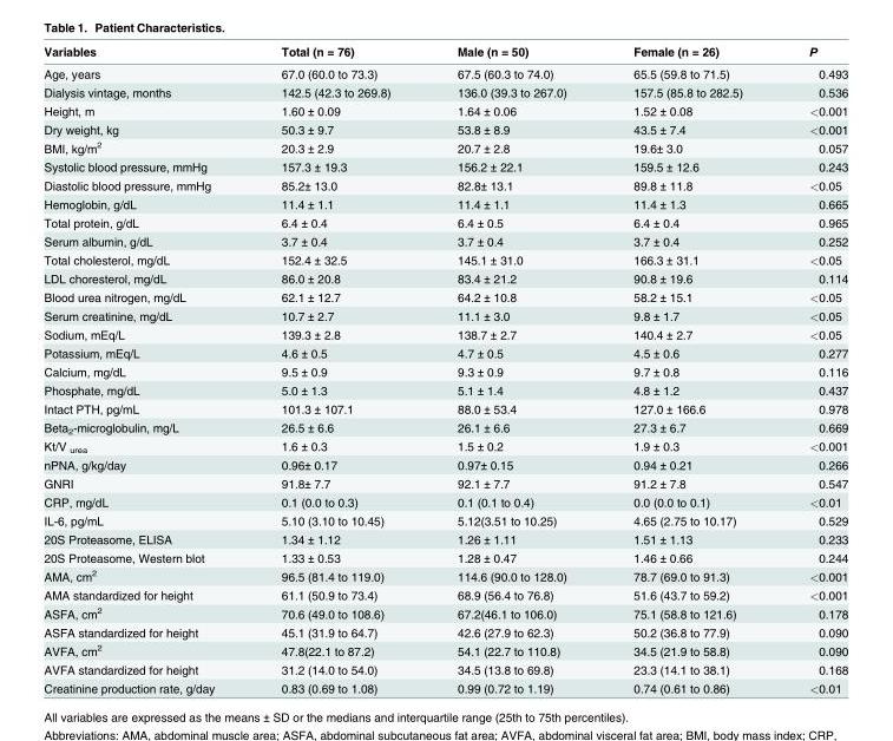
<table><thead><tr><td>Variables</td><td>Total (n = 76)</td><td>Male (n = 50)</td><td>Female (n = 26)</td><td>P</td></tr></thead><tbody><tr><td>Age, years</td><td>67.0 (60.0 to 73.3)</td><td>67.5 (60.3 to 74.0)</td><td>65.5 (59.8 to 71.5)</td><td>0.493</td></tr><tr><td>Dialysis vintage, months</td><td>142.5 (42.3 to 269.8)</td><td>136.0 (39.3 to 267.0)</td><td>157.5 (85.8 to 282.5)</td><td>0.536</td></tr><tr><td>Height, m</td><td>1.60 ± 0.09</td><td>1.64 ± 0.06</td><td>1.52 ± 0.08</td><td>&lt;0.001</td></tr><tr><td>Dry weight, kg</td><td>50.3 ± 9.7</td><td>53.8 ± 8.9</td><td>43.5 ± 7.4</td><td>&lt;0.001</td></tr><tr><td>BMI, kg/m<sup>2</sup></td><td>20.3 ± 2.9</td><td>20.7 ± 2.8</td><td>19.6± 3.0</td><td>0.057</td></tr><tr><td>Systolic blood pressure, mmHg</td><td>157.3 ± 19.3</td><td>156.2 ± 22.1</td><td>159.5 ± 12.6</td><td>0.243</td></tr><tr><td>Diastolic blood pressure, mmHg</td><td>85.2± 13.0</td><td>82.8± 13.1</td><td>89.8 ± 11.8</td><td>&lt;0.05</td></tr><tr><td>Hemoglobin, g/dL</td><td>11.4 ± 1.1</td><td>11.4 ± 1.1</td><td>11.4 ± 1.3</td><td>0.665</td></tr><tr><td>Total protein, g/dL</td><td>6.4 ± 0.4</td><td>6.4 ± 0.5</td><td>6.4 ± 0.4</td><td>0.965</td></tr><tr><td>Serum albumin, g/dL</td><td>3.7 ± 0.4</td><td>3.7 ± 0.4</td><td>3.7 ± 0.4</td><td>0.252</td></tr><tr><td>Total cholesterol, mg/dL</td><td>152.4 ± 32.5</td><td>145.1 ± 31.0</td><td>166.3 ± 31.1</td><td>&lt;0.05</td></tr><tr><td>LDL choresterol, mg/dL</td><td>86.0 ± 20.8</td><td>83.4 ± 21.2</td><td>90.8 ± 19.6</td><td>0.114</td></tr><tr><td>Blood urea nitrogen, mg/dL</td><td>62.1 ± 12.7</td><td>64.2 ± 10.8</td><td>58.2 ± 15.1</td><td>&lt;0.05</td></tr><tr><td>Serum creatinine, mg/dL</td><td>10.7 ± 2.7</td><td>11.1 ± 3.0</td><td>9.8 ± 1.7</td><td>&lt;0.05</td></tr><tr><td>Sodium, mEq/L</td><td>139.3 ± 2.8</td><td>138.7 ± 2.7</td><td>140.4 ± 2.7</td><td>&lt;0.05</td></tr><tr><td>Potassium, mEq/L</td><td>4.6 ± 0.5</td><td>4.7 ± 0.5</td><td>4.5 ± 0.6</td><td>0.277</td></tr><tr><td>Calcium, mg/dL</td><td>9.5 ± 0.9</td><td>9.3 ± 0.9</td><td>9.7 ± 0.8</td><td>0.116</td></tr><tr><td>Phosphate, mg/dL</td><td>5.0 ± 1.3</td><td>5.1 ± 1.4</td><td>4.8 ± 1.2</td><td>0.437</td></tr><tr><td>Intact PTH, pg/mL</td><td>101.3 ± 107.1</td><td>88.0 ± 53.4</td><td>127.0 ± 166.6</td><td>0.978</td></tr><tr><td>Beta<sub>2</sub>-microglobulin, mg/L</td><td>26.5 ± 6.6</td><td>26.1 ± 6.6</td><td>27.3 ± 6.7</td><td>0.669</td></tr><tr><td>Kt/V <sub>urea</sub></td><td>1.6 ± 0.3</td><td>1.5 ± 0.2</td><td>1.9 ± 0.3</td><td>&lt;0.001</td></tr><tr><td>nPNA, g/kg/day</td><td>0.96± 0.17</td><td>0.97± 0.15</td><td>0.94 ± 0.21</td><td>0.266</td></tr><tr><td>GNRI</td><td>91.8± 7.7</td><td>92.1 ± 7.7</td><td>91.2 ± 7.8</td><td>0.547</td></tr><tr><td>CRP, mg/dL</td><td>0.1 (0.0 to 0.3)</td><td>0.1 (0.1 to 0.4)</td><td>0.0 (0.0 to 0.1)</td><td>&lt;0.01</td></tr><tr><td>IL-6, pg/mL</td><td>5.10 (3.10 to 10.45)</td><td>5.12(3.51 to 10.25)</td><td>4.65 (2.75 to 10.17)</td><td>0.529</td></tr><tr><td>20S Proteasome, ELISA</td><td>1.34 ± 1.12</td><td>1.26 ± 1.11</td><td>1.51 ± 1.13</td><td>0.233</td></tr><tr><td>20S Proteasome, Western blot</td><td>1.33 ± 0.53</td><td>1.28 ± 0.47</td><td>1.46 ± 0.66</td><td>0.244</td></tr><tr><td>AMA, cm<sup>2</sup></td><td>96.5 (81.4 to 119.0)</td><td>114.6 (90.0 to 128.0)</td><td>78.7 (69.0 to 91.3)</td><td>&lt;0.001</td></tr><tr><td>AMA standardized for height</td><td>61.1 (50.9 to 73.4)</td><td>68.9 (56.4 to 76.8)</td><td>51.6 (43.7 to 59.2)</td><td>&lt;0.001</td></tr><tr><td>ASFA, cm<sup>2</sup></td><td>70.6 (49.0 to 108.6)</td><td>67.2(46.1 to 106.0)</td><td>75.1 (58.8 to 121.6)</td><td>0.178</td></tr><tr><td>ASFA standardized for height</td><td>45.1 (31.9 to 64.7)</td><td>42.6 (27.9 to 62.3)</td><td>50.2 (36.8 to 77.9)</td><td>0.090</td></tr><tr><td>AVFA, cm<sup>2</sup></td><td>47.8(22.1 to 87.2)</td><td>54.1 (22.7 to 110.8)</td><td>34.5 (21.9 to 58.8)</td><td>0.090</td></tr><tr><td>AVFA standardized for height</td><td>31.2 (14.0 to 54.0)</td><td>34.5 (13.8 to 69.8)</td><td>23.3 (14.1 to 38.1)</td><td>0.168</td></tr><tr><td>Creatinine production rate, g/day</td><td>0.83 (0.69 to 1.08)</td><td>0.99 (0.72 to 1.19)</td><td>0.74 (0.61 to 0.86)</td><td>&lt;0.01</td></tr></tbody></table>